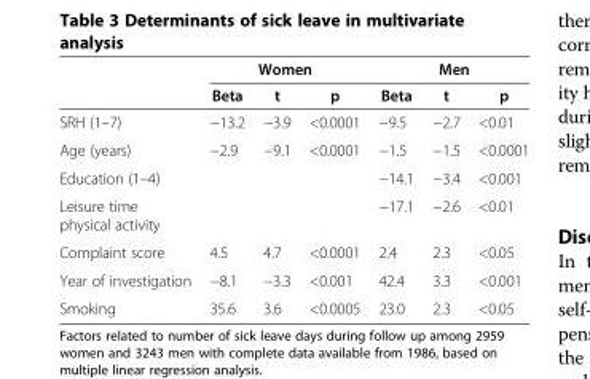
<table><thead><tr><td rowspan="2"></td><td colspan="3">Women</td><td colspan="3">Men</td></tr><tr><td>Beta</td><td>t</td><td>p</td><td>Beta</td><td>t</td><td>p</td></tr></thead><tbody><tr><td>SRH (1–7)</td><td>−13.2</td><td>−3.9</td><td>&lt;0.0001</td><td>−9.5</td><td>−2.7</td><td>&lt;0.01</td></tr><tr><td>Age (years)</td><td>−2.9</td><td>−9.1</td><td>&lt;0.0001</td><td>−1.5</td><td>−1.5</td><td>&lt;0.0001</td></tr><tr><td>Education (1–4)</td><td></td><td></td><td></td><td>−14.1</td><td>−3.4</td><td>&lt;0.001</td></tr><tr><td>Leisure time physical activity</td><td></td><td></td><td></td><td>−17.1</td><td>−2.6</td><td>&lt;0.01</td></tr><tr><td>Complaint score</td><td>4.5</td><td>4.7</td><td>&lt;0.0001</td><td>2.4</td><td>2.3</td><td>&lt;0.05</td></tr><tr><td>Year of investigation</td><td>−8.1</td><td>−3.3</td><td>&lt;0.001</td><td>42.4</td><td>3.3</td><td>&lt;0.001</td></tr><tr><td>Smoking</td><td>35.6</td><td>3.6</td><td>&lt;0.0005</td><td>23.0</td><td>2.3</td><td>&lt;0.05</td></tr></tbody></table>